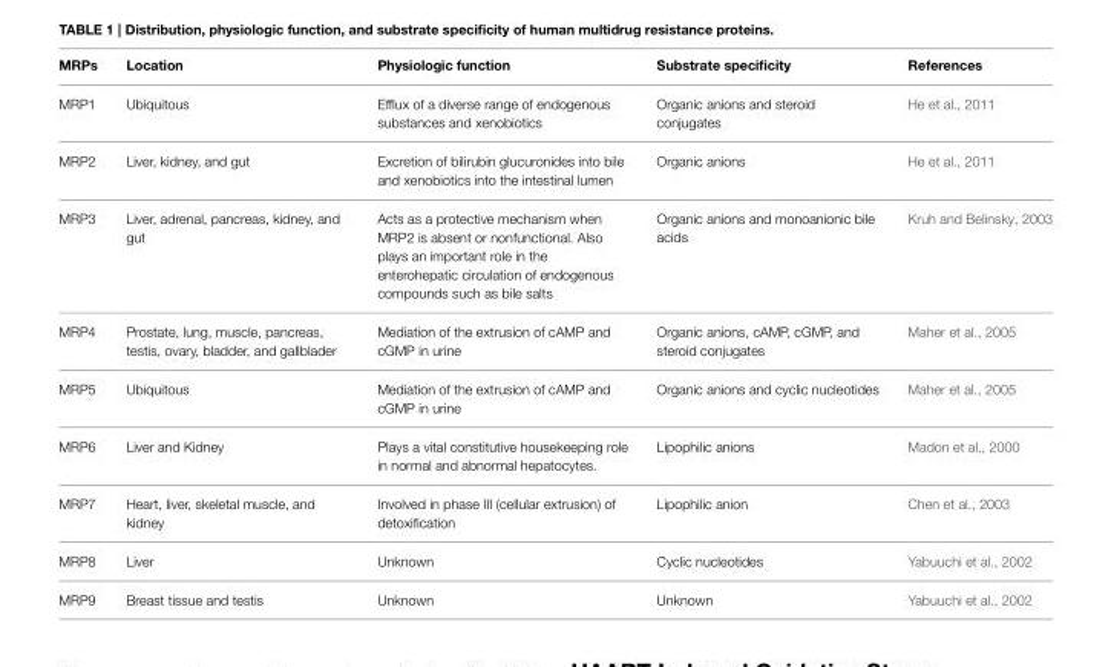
<table><thead><tr><td>MRPs</td><td>Location</td><td>Physiologic function</td><td>Substrate specificity</td><td>References</td></tr></thead><tbody><tr><td>MRP1</td><td>Ubiquitous</td><td>Efflux of a diverse range of endogenous substances and xenobiotics</td><td>Organic anions and steroid conjugates</td><td>He et al., 2011</td></tr><tr><td>MRP2</td><td>Liver, kidney, and gut</td><td>Excretion of bilirubin glucuronides into bile and xenobiotics into the intestinal lumen</td><td>Organic anions</td><td>He et al., 2011</td></tr><tr><td>MRP3</td><td>Liver, adrenal, pancreas, kidney, and gut</td><td>Acts as a protective mechanism when MRP2 is absent or nonfunctional. Also plays an important role in the enterohepatic circulation of endogenous compounds such as bile salts</td><td>Organic anions and monoanionic bile acids</td><td>Kruh and Belinsky, 2003</td></tr><tr><td>MRP4</td><td>Prostate, lung, muscle, pancreas, testis, ovary, bladder, and gallblader</td><td>Mediation of the extrusion of cAMP and cGMP in urine</td><td>Organic anions, cAMP, cGMP, and steroid conjugates</td><td>Maher et al., 2005</td></tr><tr><td>MRP5</td><td>Ubiquitous</td><td>Mediation of the extrusion of cAMP and cGMP in urine</td><td>Organic anions and cyclic nucleotides</td><td>Maher et al., 2005</td></tr><tr><td>MRP6</td><td>Liver and Kidney</td><td>Plays a vital constitutive housekeeping role in normal and abnormal hepatocytes.</td><td>Lipophilic anions</td><td>Madon et al., 2000</td></tr><tr><td>MRP7</td><td>Heart, liver, skeletal muscle, and kidney</td><td>Involved in phase III (cellular extrusion) of detoxification</td><td>Lipophilic anion</td><td>Chen et al., 2003</td></tr><tr><td>MRP8</td><td>Liver</td><td>Unknown</td><td>Cyclic nucleotides</td><td>Yabuuchi et al., 2002</td></tr><tr><td>MRP9</td><td>Breast tissue and testis</td><td>Unknown</td><td>Unknown</td><td>Yabuuchi et al., 2002</td></tr></tbody></table>